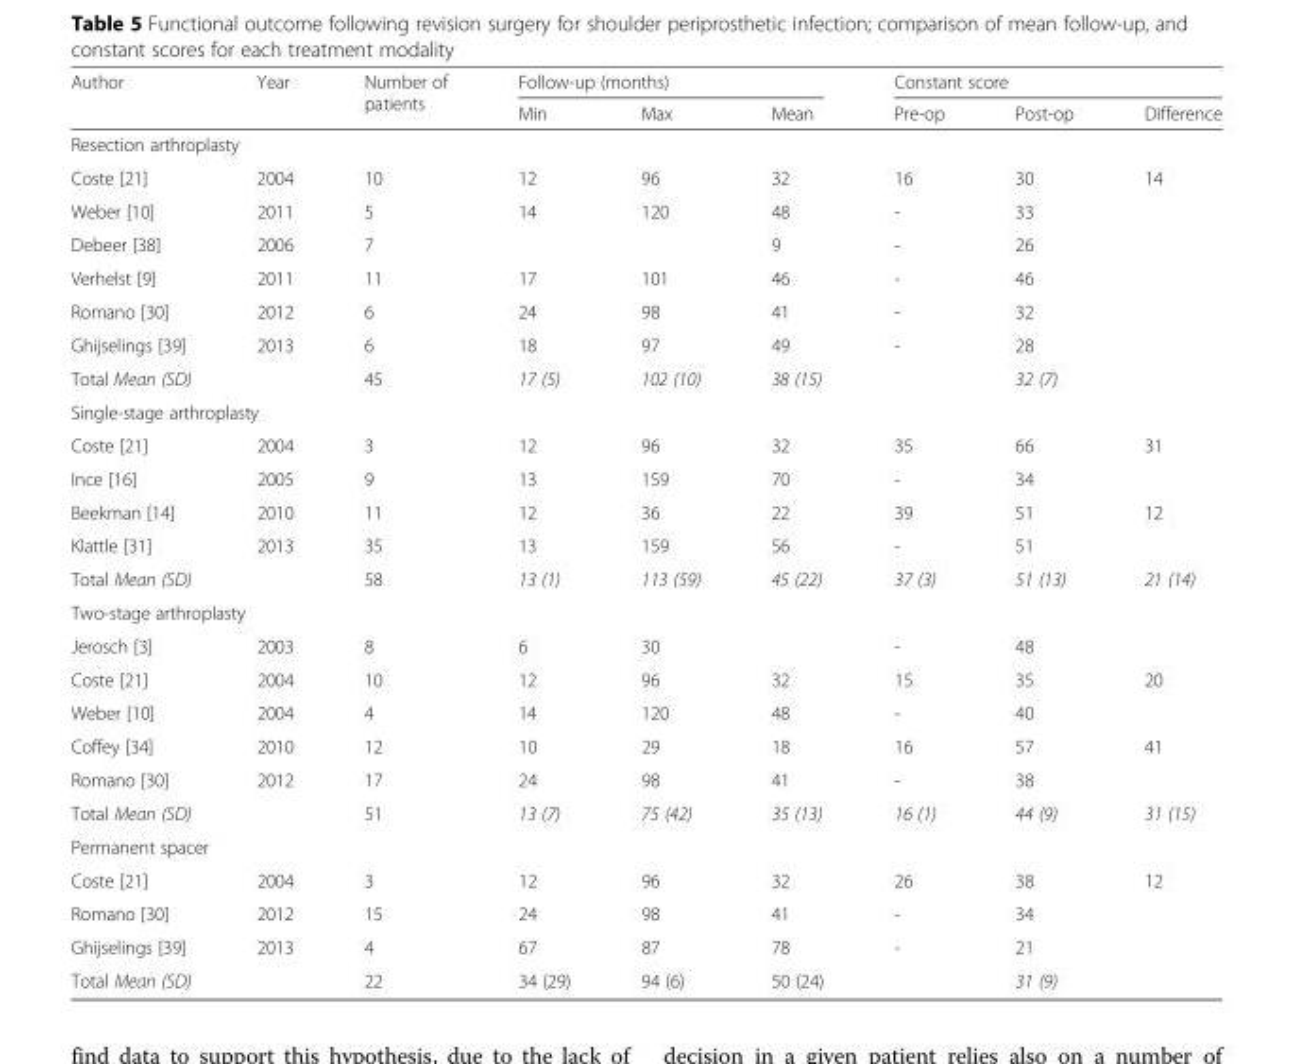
<table><thead><tr><td rowspan="2">Author</td><td rowspan="2">Year</td><td rowspan="2">Number of patients</td><td colspan="3">Follow-up (months)</td><td colspan="3">Constant score</td></tr><tr><td>Min</td><td>Max</td><td>Mean</td><td>Pre-op</td><td>Post-op</td><td>Difference</td></tr></thead><tbody><tr><td colspan="9">Resection arthroplasty</td></tr><tr><td>Coste [21]</td><td>2004</td><td>10</td><td>12</td><td>96</td><td>32</td><td>16</td><td>30</td><td>14</td></tr><tr><td>Weber [10]</td><td>2011</td><td>5</td><td>14</td><td>120</td><td>48</td><td>-</td><td>33</td><td></td></tr><tr><td>Debeer [38]</td><td>2006</td><td>7</td><td></td><td></td><td>9</td><td>-</td><td>26</td><td></td></tr><tr><td>Verhelst [9]</td><td>2011</td><td>11</td><td>17</td><td>101</td><td>46</td><td>-</td><td>46</td><td></td></tr><tr><td>Romano [30]</td><td>2012</td><td>6</td><td>24</td><td>98</td><td>41</td><td>-</td><td>32</td><td></td></tr><tr><td>Ghijselings [39]</td><td>2013</td><td>6</td><td>18</td><td>97</td><td>49</td><td>-</td><td>28</td><td></td></tr><tr><td colspan="2">Total Mean (SD)</td><td>45</td><td>17 (5)</td><td>102 (10)</td><td>38 (15)</td><td></td><td>32 (7)</td><td></td></tr><tr><td colspan="9">Single-stage arthroplasty</td></tr><tr><td>Coste [21]</td><td>2004</td><td>3</td><td>12</td><td>96</td><td>32</td><td>35</td><td>66</td><td>31</td></tr><tr><td>Ince [16]</td><td>2005</td><td>9</td><td>13</td><td>159</td><td>70</td><td>-</td><td>34</td><td></td></tr><tr><td>Beekman [14]</td><td>2010</td><td>11</td><td>12</td><td>36</td><td>22</td><td>39</td><td>51</td><td>12</td></tr><tr><td>Klattle [31]</td><td>2013</td><td>35</td><td>13</td><td>159</td><td>56</td><td>-</td><td>51</td><td></td></tr><tr><td colspan="2">Total Mean (SD)</td><td>58</td><td>13 (1)</td><td>113 (59)</td><td>45 (22)</td><td>37 (3)</td><td>51 (13)</td><td>21 (14)</td></tr><tr><td colspan="9">Two-stage arthroplasty</td></tr><tr><td>Jerosch [3]</td><td>2003</td><td>8</td><td>6</td><td>30</td><td></td><td>-</td><td>48</td><td></td></tr><tr><td>Coste [21]</td><td>2004</td><td>10</td><td>12</td><td>96</td><td>32</td><td>15</td><td>35</td><td>20</td></tr><tr><td>Weber [10]</td><td>2004</td><td>4</td><td>14</td><td>120</td><td>48</td><td>-</td><td>40</td><td></td></tr><tr><td>Coffey [34]</td><td>2010</td><td>12</td><td>10</td><td>29</td><td>18</td><td>16</td><td>57</td><td>41</td></tr><tr><td>Romano [30]</td><td>2012</td><td>17</td><td>24</td><td>98</td><td>41</td><td>-</td><td>38</td><td></td></tr><tr><td colspan="2">Total Mean (SD)</td><td>51</td><td>13 (7)</td><td>75 (42)</td><td>35 (13)</td><td>16 (1)</td><td>44 (9)</td><td>31 (15)</td></tr><tr><td colspan="9">Permanent spacer</td></tr><tr><td>Coste [21]</td><td>2004</td><td>3</td><td>12</td><td>96</td><td>32</td><td>26</td><td>38</td><td>12</td></tr><tr><td>Romano [30]</td><td>2012</td><td>15</td><td>24</td><td>98</td><td>41</td><td>-</td><td>34</td><td></td></tr><tr><td>Ghijselings [39]</td><td>2013</td><td>4</td><td>67</td><td>87</td><td>78</td><td>-</td><td>21</td><td></td></tr><tr><td colspan="2">Total Mean (SD)</td><td>22</td><td>34 (29)</td><td>94 (6)</td><td>50 (24)</td><td></td><td>31 (9)</td><td></td></tr></tbody></table>